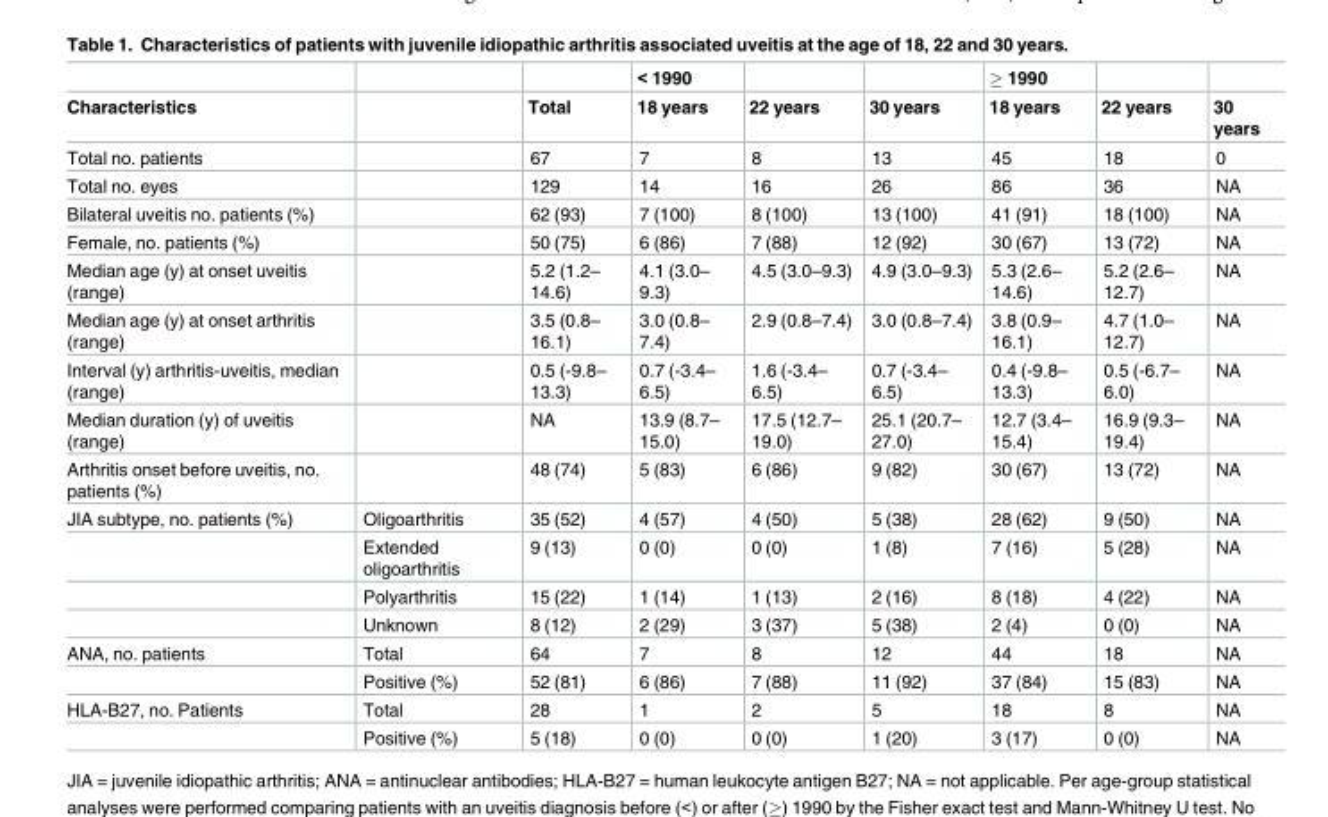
<table><thead><tr><td rowspan="2">Characteristics</td><td rowspan="2"></td><td rowspan="2">Total</td><td rowspan="2">&lt; 1990 18 years</td><td rowspan="2">22 years</td><td rowspan="2">30 years</td><td rowspan="2">≥ 1990 18 years</td><td rowspan="2">22 years</td><td rowspan="2">30 years</td></tr><tr></tr></thead><tbody><tr><td>Total no. patients</td><td></td><td>67</td><td>7</td><td>8</td><td>13</td><td>45</td><td>18</td><td>0</td></tr><tr><td>Total no. eyes</td><td></td><td>129</td><td>14</td><td>16</td><td>26</td><td>86</td><td>36</td><td>NA</td></tr><tr><td>Bilateral uveitis no. patients (%)</td><td></td><td>62 (93)</td><td>7 (100)</td><td>8 (100)</td><td>13 (100)</td><td>41 (91)</td><td>18 (100)</td><td>NA</td></tr><tr><td>Female, no. patients (%)</td><td></td><td>50 (75)</td><td>6 (86)</td><td>7 (88)</td><td>12 (92)</td><td>30 (67)</td><td>13 (72)</td><td>NA</td></tr><tr><td>Median age (y) at onset uveitis (range)</td><td></td><td>5.2 (1.2– 14.6)</td><td>4.1 (3.0– 9.3)</td><td>4.5 (3.0–9.3)</td><td>4.9 (3.0–9.3)</td><td>5.3 (2.6– 14.6)</td><td>5.2 (2.6– 12.7)</td><td>NA</td></tr><tr><td>Median age (y) at onset arthritis (range)</td><td></td><td>3.5 (0.8– 16.1)</td><td>3.0 (0.8– 7.4)</td><td>2.9 (0.8–7.4)</td><td>3.0 (0.8–7.4)</td><td>3.8 (0.9– 16.1)</td><td>4.7 (1.0– 12.7)</td><td>NA</td></tr><tr><td>Interval (y) arthritis-uveitis, median (range)</td><td></td><td>0.5 (-9.8– 13.3)</td><td>0.7 (-3.4– 6.5)</td><td>1.6 (-3.4– 6.5)</td><td>0.7 (-3.4– 6.5)</td><td>0.4 (-9.8– 13.3)</td><td>0.5 (-6.7– 6.0)</td><td>NA</td></tr><tr><td>Median duration (y) of uveitis (range)</td><td></td><td>NA</td><td>13.9 (8.7– 15.0)</td><td>17.5 (12.7– 19.0)</td><td>25.1 (20.7– 27.0)</td><td>12.7 (3.4– 15.4)</td><td>16.9 (9.3– 19.4)</td><td>NA</td></tr><tr><td>Arthritis onset before uveitis, no. patients (%)</td><td></td><td>48 (74)</td><td>5 (83)</td><td>6 (86)</td><td>9 (82)</td><td>30 (67)</td><td>13 (72)</td><td>NA</td></tr><tr><td rowspan="4">JIA subtype, no. patients (%)</td><td>Oligoarthritis</td><td>35 (52)</td><td>4 (57)</td><td>4 (50)</td><td>5 (38)</td><td>28 (62)</td><td>9 (50)</td><td>NA</td></tr><tr><td>Extended oligoarthritis</td><td>9 (13)</td><td>0 (0)</td><td>0 (0)</td><td>1 (8)</td><td>7 (16)</td><td>5 (28)</td><td>NA</td></tr><tr><td>Polyarthritis</td><td>15 (22)</td><td>1 (14)</td><td>1 (13)</td><td>2 (16)</td><td>8 (18)</td><td>4 (22)</td><td>NA</td></tr><tr><td>Unknown</td><td>8 (12)</td><td>2 (29)</td><td>3 (37)</td><td>5 (38)</td><td>2 (4)</td><td>0 (0)</td><td>NA</td></tr><tr><td rowspan="2">ANA, no. patients</td><td>Total</td><td>64</td><td>7</td><td>8</td><td>12</td><td>44</td><td>18</td><td>NA</td></tr><tr><td>Positive (%)</td><td>52 (81)</td><td>6 (86)</td><td>7 (88)</td><td>11 (92)</td><td>37 (84)</td><td>15 (83)</td><td>NA</td></tr><tr><td rowspan="2">HLA-B27, no. Patients</td><td>Total</td><td>28</td><td>1</td><td>2</td><td>5</td><td>18</td><td>8</td><td>NA</td></tr><tr><td>Positive (%)</td><td>5 (18)</td><td>0 (0)</td><td>0 (0)</td><td>1 (20)</td><td>3 (17)</td><td>0 (0)</td><td>NA</td></tr></tbody></table>